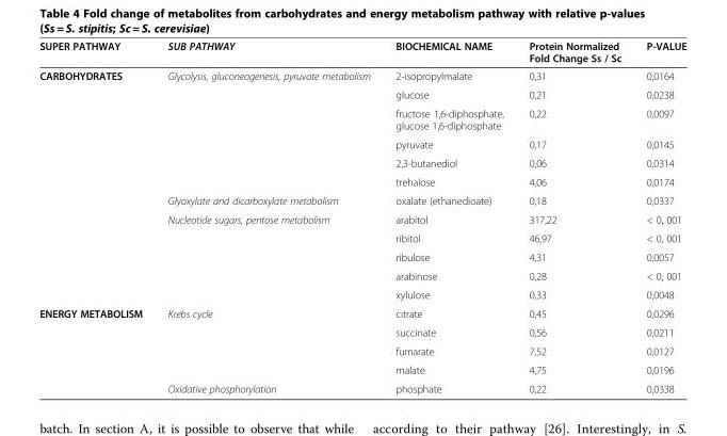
<table><thead><tr><td>SUPER PATHWAY</td><td>SUB PATHWAY</td><td>BIOCHEMICAL NAME</td><td>Protein Normalized Fold Change Ss / Sc</td><td>P-VALUE</td></tr></thead><tbody><tr><td rowspan="12">CARBOHYDRATES</td><td>Glycolysis, gluconeogenesis, pyruvate metabolism</td><td>2-isopropylmalate</td><td>0,31</td><td>0,0164</td></tr><tr><td></td><td>glucose</td><td>0,21</td><td>0,0238</td></tr><tr><td></td><td>fructose 1,6-diphosphate, glucose 1,6-diphosphate</td><td>0,22</td><td>0,0097</td></tr><tr><td></td><td>pyruvate</td><td>0,17</td><td>0,0145</td></tr><tr><td></td><td>2,3-butanediol</td><td>0,06</td><td>0,0314</td></tr><tr><td></td><td>trehalose</td><td>4,06</td><td>0,0174</td></tr><tr><td>Glyoxylate and dicarboxylate metabolism</td><td>oxalate (ethanedioate)</td><td>0,18</td><td>0,0337</td></tr><tr><td>Nucleotide sugars, pentose metabolism</td><td>arabitol</td><td>317,22</td><td>&lt; 0, 001</td></tr><tr><td></td><td>ribitol</td><td>46,97</td><td>&lt; 0, 001</td></tr><tr><td></td><td>ribulose</td><td>4,31</td><td>0,0057</td></tr><tr><td></td><td>arabinose</td><td>0,28</td><td>&lt; 0, 001</td></tr><tr><td></td><td>xylulose</td><td>0,33</td><td>0,0048</td></tr><tr><td rowspan="5">ENERGY METABOLISM</td><td>Krebs cycle</td><td>citrate</td><td>0,45</td><td>0,0296</td></tr><tr><td></td><td>succinate</td><td>0,56</td><td>0,0211</td></tr><tr><td></td><td>fumarate</td><td>7,52</td><td>0,0127</td></tr><tr><td></td><td>malate</td><td>4,75</td><td>0,0196</td></tr><tr><td>Oxidative phosphorylation</td><td>phosphate</td><td>0,22</td><td>0,0338</td></tr></tbody></table>